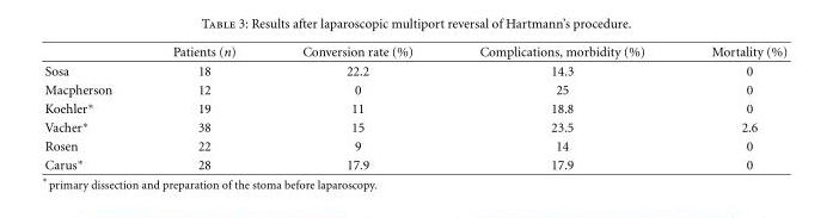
<table><thead><tr><td></td><td>Patients (n)</td><td>Conversion rate (%)</td><td>Complications, morbidity (%)</td><td>Mortality (%)</td></tr></thead><tbody><tr><td>Sosa</td><td>18</td><td>22.2</td><td>14.3</td><td>0</td></tr><tr><td>Macpherson</td><td>12</td><td>0</td><td>25</td><td>0</td></tr><tr><td>Koehler∗</td><td>19</td><td>11</td><td>18.8</td><td>0</td></tr><tr><td>Vacher∗</td><td>38</td><td>15</td><td>23.5</td><td>2.6</td></tr><tr><td>Rosen</td><td>22</td><td>9</td><td>14</td><td>0</td></tr><tr><td>Carus∗</td><td>28</td><td>17.9</td><td>17.9</td><td>0</td></tr></tbody></table>